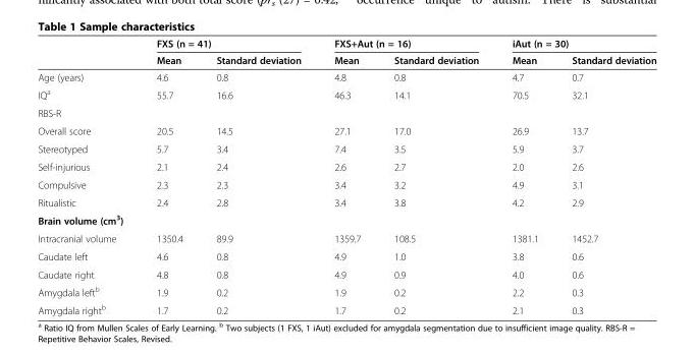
<table><thead><tr><td rowspan="2"></td><td colspan="2">FXS (n = 41)</td><td colspan="2">FXS+Aut (n = 16)</td><td colspan="2">iAut (n = 30)</td></tr><tr><td>Mean</td><td>Standard deviation</td><td>Mean</td><td>Standard deviation</td><td>Mean</td><td>Standard deviation</td></tr></thead><tbody><tr><td>Age (years)</td><td>4.6</td><td>0.8</td><td>4.8</td><td>0.8</td><td>4.7</td><td>0.7</td></tr><tr><td>IQ<sup>a</sup></td><td>55.7</td><td>16.6</td><td>46.3</td><td>14.1</td><td>70.5</td><td>32.1</td></tr><tr><td colspan="7">RBS-R</td></tr><tr><td>Overall score</td><td>20.5</td><td>14.5</td><td>27.1</td><td>17.0</td><td>26.9</td><td>13.7</td></tr><tr><td>Stereotyped</td><td>5.7</td><td>3.4</td><td>7.4</td><td>3.5</td><td>5.9</td><td>3.7</td></tr><tr><td>Self-injurious</td><td>2.1</td><td>2.4</td><td>2.6</td><td>2.7</td><td>2.0</td><td>2.6</td></tr><tr><td>Compulsive</td><td>2.3</td><td>2.3</td><td>3.4</td><td>3.2</td><td>4.9</td><td>3.1</td></tr><tr><td>Ritualistic</td><td>2.4</td><td>2.8</td><td>3.4</td><td>3.8</td><td>4.2</td><td>2.9</td></tr><tr><td colspan="7">Brain volume (cm<sup>3</sup>)</td></tr><tr><td>Intracranial volume</td><td>1350.4</td><td>89.9</td><td>1359.7</td><td>108.5</td><td>1381.1</td><td>1452.7</td></tr><tr><td>Caudate left</td><td>4.6</td><td>0.8</td><td>4.9</td><td>1.0</td><td>3.8</td><td>0.6</td></tr><tr><td>Caudate right</td><td>4.8</td><td>0.8</td><td>4.9</td><td>0.9</td><td>4.0</td><td>0.6</td></tr><tr><td>Amygdala left<sup>b</sup></td><td>1.9</td><td>0.2</td><td>1.9</td><td>0.2</td><td>2.2</td><td>0.3</td></tr><tr><td>Amygdala right<sup>b</sup></td><td>1.7</td><td>0.2</td><td>1.7</td><td>0.2</td><td>2.1</td><td>0.3</td></tr></tbody></table>